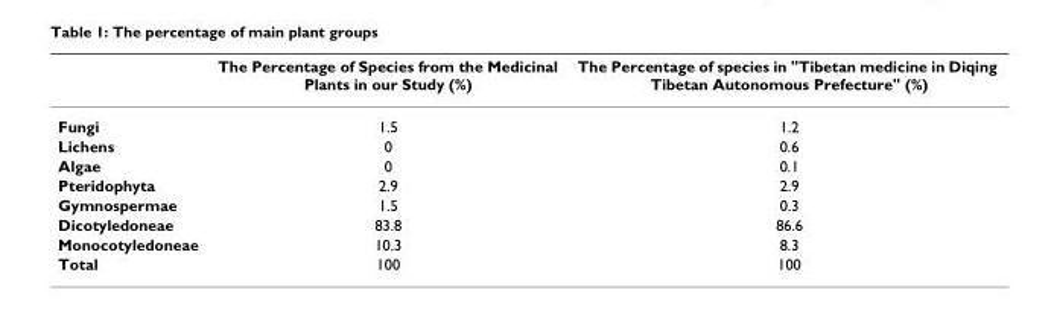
<table><thead><tr><td></td><td>The Percentage of Species from the Medicinal Plants in our Study (%)</td><td>The Percentage of species in &quot;Tibetan medicine in Diqing Tibetan Autonomous Prefecture&quot; (%)</td></tr></thead><tbody><tr><td>Fungi</td><td>1.5</td><td>1.2</td></tr><tr><td>Lichens</td><td>0</td><td>0.6</td></tr><tr><td>Algae</td><td>0</td><td>0.1</td></tr><tr><td>Pteridophyta</td><td>2.9</td><td>2.9</td></tr><tr><td>Gymnospermae</td><td>1.5</td><td>0.3</td></tr><tr><td>Dicotyledoneae</td><td>83.8</td><td>86.6</td></tr><tr><td>Monocotyledoneae</td><td>10.3</td><td>8.3</td></tr><tr><td>Total</td><td>100</td><td>100</td></tr></tbody></table>